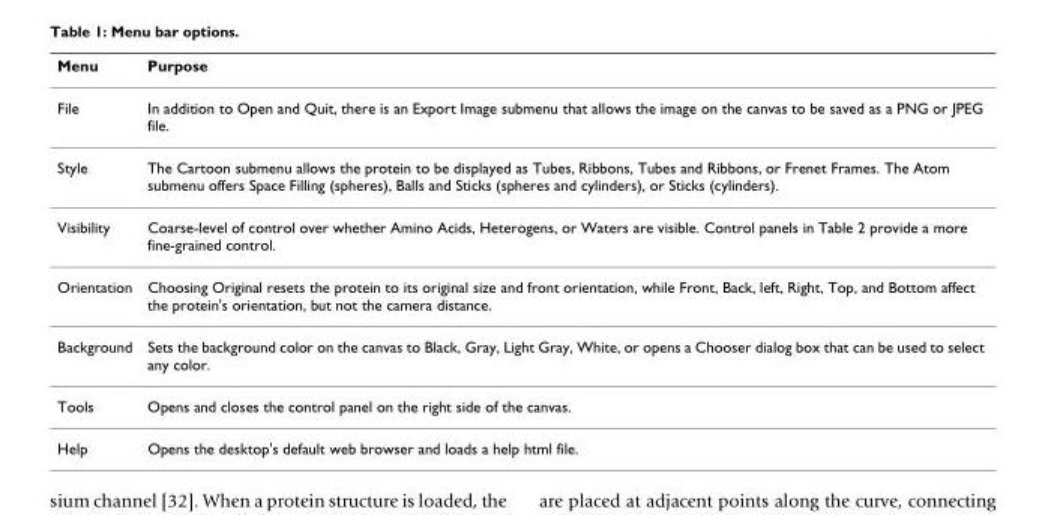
<table><thead><tr><td>Menu</td><td>Purpose</td></tr></thead><tbody><tr><td>File</td><td>In addition to Open and Quit, there is an Export Image submenu that allows the image on the canvas to be saved as a PNG or JPEG file.</td></tr><tr><td>Style</td><td>The Cartoon submenu allows the protein to be displayed as Tubes, Ribbons, Tubes and Ribbons, or Frenet Frames. The Atom submenu offers Space Filling (spheres), Balls and Sticks (spheres and cylinders), or Sticks (cylinders).</td></tr><tr><td>Visibility</td><td>Coarse-level of control over whether Amino Acids, Heterogens, or Waters are visible. Control panels in Table 2 provide a more fine-grained control.</td></tr><tr><td>Orientation</td><td>Choosing Original resets the protein to its original size and front orientation, while Front, Back, left, Right, Top, and Bottom affect the protein&#x27;s orientation, but not the camera distance.</td></tr><tr><td>Background</td><td>Sets the background color on the canvas to Black, Gray, Light Gray, White, or opens a Chooser dialog box that can be used to select any color.</td></tr><tr><td>Tools</td><td>Opens and closes the control panel on the right side of the canvas.</td></tr><tr><td>Help</td><td>Opens the desktop&#x27;s default web browser and loads a help html file.</td></tr></tbody></table>